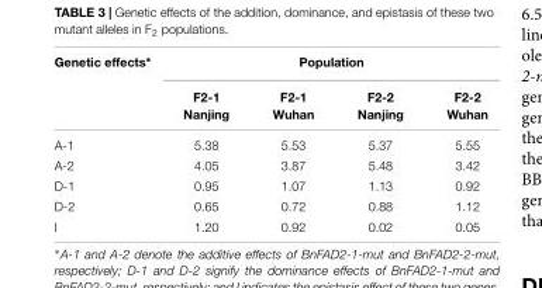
<table><thead><tr><td rowspan="2">Genetic effects∗</td><td colspan="4">Population</td></tr><tr><td>F2-1 Nanjing</td><td>F2-1 Wuhan</td><td>F2-2 Nanjing</td><td>F2-2 Wuhan</td></tr></thead><tbody><tr><td>A-1</td><td>5.38</td><td>5.53</td><td>5.37</td><td>5.55</td></tr><tr><td>A-2</td><td>4.05</td><td>3.87</td><td>5.48</td><td>3.42</td></tr><tr><td>D-1</td><td>0.95</td><td>1.07</td><td>1.13</td><td>0.92</td></tr><tr><td>D-2</td><td>0.65</td><td>0.72</td><td>0.88</td><td>1.12</td></tr><tr><td>I</td><td>1.20</td><td>0.92</td><td>0.02</td><td>0.05</td></tr></tbody></table>